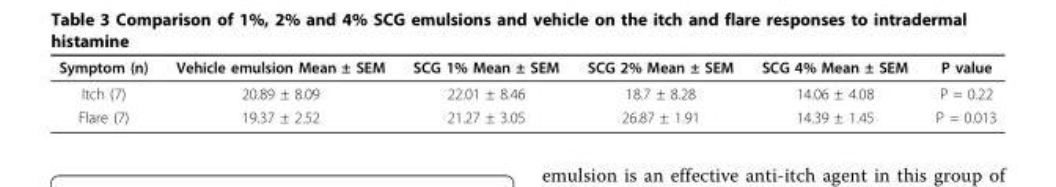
<table><thead><tr><td>Symptom (n)</td><td>Vehicle emulsion Mean ± SEM</td><td>SCG 1% Mean ± SEM</td><td>SCG 2% Mean ± SEM</td><td>SCG 4% Mean ± SEM</td><td>P value</td></tr></thead><tbody><tr><td>Itch (7)</td><td>20.89 ± 8.09</td><td>22.01 ± 8.46</td><td>18.7 ± 8.28</td><td>14.06 ± 4.08</td><td>P = 0.22</td></tr><tr><td>Flare (7)</td><td>19.37 ± 2.52</td><td>21.27 ± 3.05</td><td>26.87 ± 1.91</td><td>14.39 ± 1.45</td><td>P = 0.013</td></tr></tbody></table>